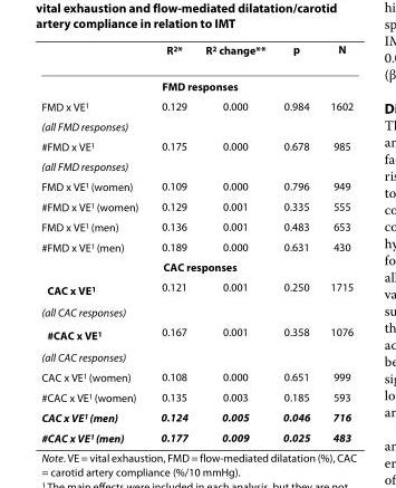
<table><thead><tr><td></td><td>R<sup>2</sup>*</td><td>R<sup>2</sup> change**</td><td>p</td><td>N</td></tr></thead><tbody><tr><td colspan="5">FMD responses</td></tr><tr><td>FMD x VE<sup>1</sup></td><td>0.129</td><td>0.000</td><td>0.984</td><td>1602</td></tr><tr><td colspan="5">(all FMD responses)</td></tr><tr><td>#FMD x VE<sup>1</sup></td><td>0.175</td><td>0.000</td><td>0.678</td><td>985</td></tr><tr><td colspan="5">(all FMD responses)</td></tr><tr><td>FMD x VE<sup>1</sup> (women)</td><td>0.109</td><td>0.000</td><td>0.796</td><td>949</td></tr><tr><td>#FMD x VE<sup>1</sup> (women)</td><td>0.129</td><td>0.001</td><td>0.335</td><td>555</td></tr><tr><td>FMD x VE<sup>1</sup> (men)</td><td>0.136</td><td>0.001</td><td>0.483</td><td>653</td></tr><tr><td>#FMD x VE<sup>1</sup> (men)</td><td>0.189</td><td>0.000</td><td>0.631</td><td>430</td></tr><tr><td colspan="5">CAC responses</td></tr><tr><td>CAC x VE<sup>1</sup></td><td>0.121</td><td>0.001</td><td>0.250</td><td>1715</td></tr><tr><td colspan="5">(all CAC responses)</td></tr><tr><td>#CAC x VE<sup>1</sup></td><td>0.167</td><td>0.001</td><td>0.358</td><td>1076</td></tr><tr><td colspan="5">(all CAC responses)</td></tr><tr><td>CAC x VE<sup>1</sup> (women)</td><td>0.108</td><td>0.000</td><td>0.651</td><td>999</td></tr><tr><td>#CAC x VE<sup>1</sup> (women)</td><td>0.135</td><td>0.003</td><td>0.185</td><td>593</td></tr><tr><td>CAC x VE<sup>1</sup> (men)</td><td>0.124</td><td>0.005</td><td>0.046</td><td>716</td></tr><tr><td>#CAC x VE<sup>1</sup> (men)</td><td>0.177</td><td>0.009</td><td>0.025</td><td>483</td></tr></tbody></table>